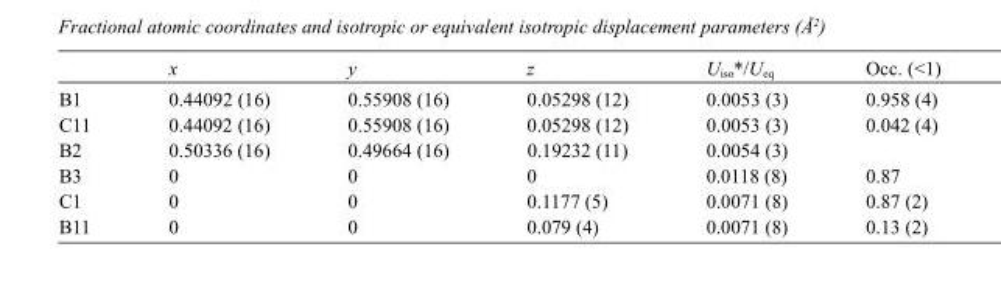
<table><thead><tr><td></td><td>x</td><td>y</td><td>z</td><td>U<sub>iso</sub>*/U<sub>eq</sub></td><td>Occ. (&lt;1)</td></tr></thead><tbody><tr><td>B1</td><td>0.44092 (16)</td><td>0.55908 (16)</td><td>0.05298 (12)</td><td>0.0053 (3)</td><td>0.958 (4)</td></tr><tr><td>C11</td><td>0.44092 (16)</td><td>0.55908 (16)</td><td>0.05298 (12)</td><td>0.0053 (3)</td><td>0.042 (4)</td></tr><tr><td>B2</td><td>0.50336 (16)</td><td>0.49664 (16)</td><td>0.19232 (11)</td><td>0.0054 (3)</td><td></td></tr><tr><td>B3</td><td>0</td><td>0</td><td>0</td><td>0.0118 (8)</td><td>0.87</td></tr><tr><td>C1</td><td>0</td><td>0</td><td>0.1177 (5)</td><td>0.0071 (8)</td><td>0.87 (2)</td></tr><tr><td>B11</td><td>0</td><td>0</td><td>0.079 (4)</td><td>0.0071 (8)</td><td>0.13 (2)</td></tr></tbody></table>